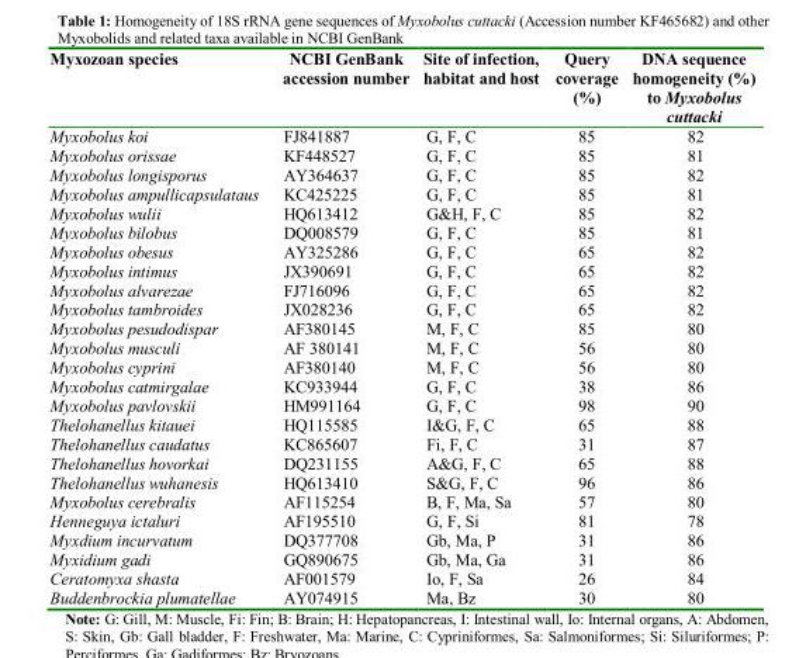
<table><thead><tr><td>Myxozoan species</td><td>NCBI GenBank accession number</td><td>Site of infection, habitat and host</td><td>Query coverage (%)</td><td>DNA sequence homogeneity (%) to Myxobolus cuttacki</td></tr></thead><tbody><tr><td>Myxobolus koi</td><td>FJ841887</td><td>G, F, C</td><td>85</td><td>82</td></tr><tr><td>Myxobolus orissae</td><td>KF448527</td><td>G, F, C</td><td>85</td><td>81</td></tr><tr><td>Myxobolus longisporus</td><td>AY364637</td><td>G, F, C</td><td>85</td><td>82</td></tr><tr><td>Myxobolus ampullicapsulataus</td><td>KC425225</td><td>G, F, C</td><td>85</td><td>81</td></tr><tr><td>Myxobolus wulii</td><td>HQ613412</td><td>G&amp;H, F, C</td><td>85</td><td>82</td></tr><tr><td>Myxobolus bilobus</td><td>DQ008579</td><td>G, F, C</td><td>85</td><td>81</td></tr><tr><td>Myxobolus obesus</td><td>AY325286</td><td>G, F, C</td><td>65</td><td>82</td></tr><tr><td>Myxobolus intimus</td><td>JX390691</td><td>G, F, C</td><td>65</td><td>82</td></tr><tr><td>Myxobolus alvarezae</td><td>FJ716096</td><td>G, F, C</td><td>65</td><td>82</td></tr><tr><td>Myxobolus tambroides</td><td>JX028236</td><td>G, F, C</td><td>65</td><td>82</td></tr><tr><td>Myxobolus pesudodispar</td><td>AF380145</td><td>M, F, C</td><td>85</td><td>80</td></tr><tr><td>Myxobolus musculi</td><td>AF 380141</td><td>M, F, C</td><td>56</td><td>80</td></tr><tr><td>Myxobolus cyprini</td><td>AF380140</td><td>M, F, C</td><td>56</td><td>80</td></tr><tr><td>Myxobolus catmirgalae</td><td>KC933944</td><td>G, F, C</td><td>38</td><td>86</td></tr><tr><td>Myxobolus pavlovskii</td><td>HM991164</td><td>G, F, C</td><td>98</td><td>90</td></tr><tr><td>Thelohanellus kitauei</td><td>HQ115585</td><td>I&amp;G, F, C</td><td>65</td><td>88</td></tr><tr><td>Thelohanellus caudatus</td><td>KC865607</td><td>Fi, F, C</td><td>31</td><td>87</td></tr><tr><td>Thelohanellus hovorkai</td><td>DQ231155</td><td>A&amp;G, F, C</td><td>65</td><td>88</td></tr><tr><td>Thelohanellus wuhanesis</td><td>HQ613410</td><td>S&amp;G, F, C</td><td>96</td><td>86</td></tr><tr><td>Myxobolus cerebralis</td><td>AF115254</td><td>B, F, Ma, Sa</td><td>57</td><td>80</td></tr><tr><td>Henneguya ictaluri</td><td>AF195510</td><td>G, F, Si</td><td>81</td><td>78</td></tr><tr><td>Myxdium incurvatum</td><td>DQ377708</td><td>Gb, Ma, P</td><td>31</td><td>86</td></tr><tr><td>Myxidium gadi</td><td>GQ890675</td><td>Gb, Ma, Ga</td><td>31</td><td>86</td></tr><tr><td>Ceratomyxa shasta</td><td>AF001579</td><td>Io, F, Sa</td><td>26</td><td>84</td></tr><tr><td>Buddenbrockia plumatellae</td><td>AY074915</td><td>Ma, Bz</td><td>30</td><td>80</td></tr></tbody></table>